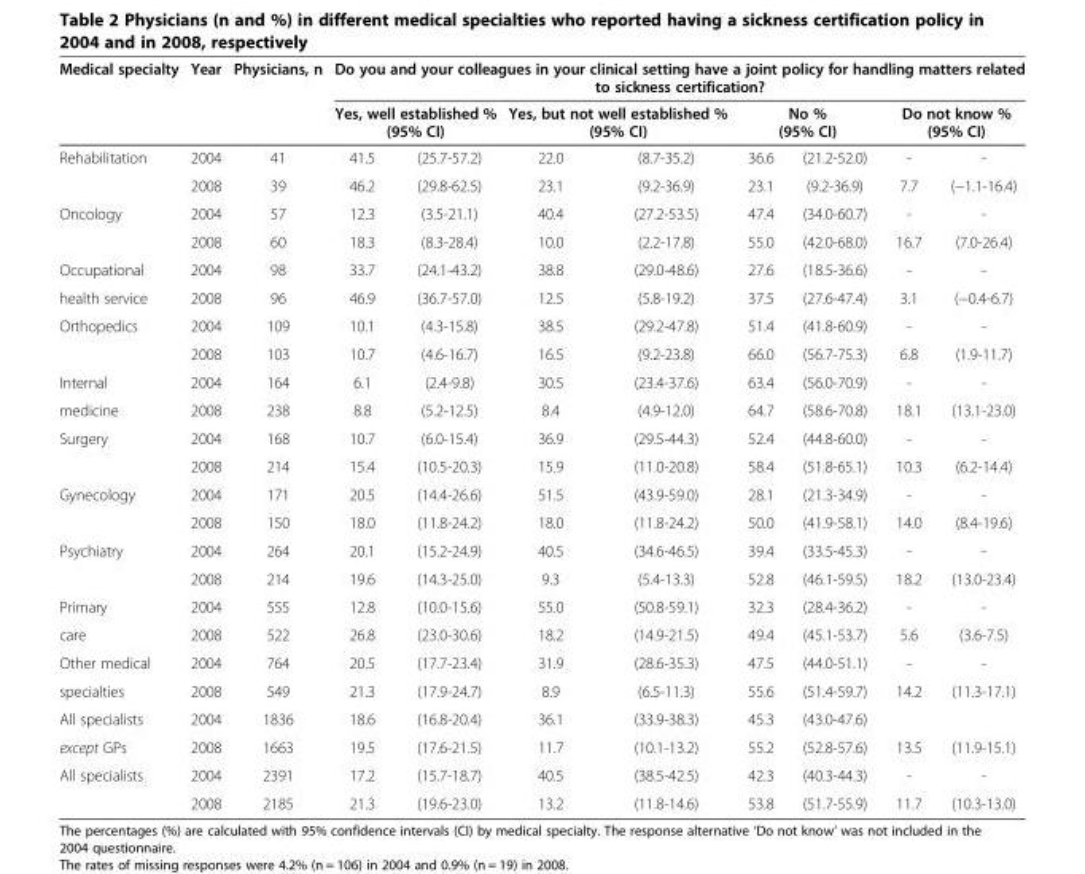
<table><thead><tr><td rowspan="3">Medical specialty Rehabilitation</td><td rowspan="3">Year 2004</td><td rowspan="3">Physicians, n 41</td><td colspan="8">Do you and your colleagues in your clinical setting have a joint policy for handling matters related to sickness certification?</td></tr><tr><td colspan="2">Yes, well established % (95% CI)</td><td colspan="2">Yes, but not well established % (95% CI)</td><td colspan="2">No % (95% CI)</td><td colspan="2">Do not know % (95% CI)</td></tr><tr><td>41.5</td><td>(25.7-57.2)</td><td>22.0</td><td>(8.7-35.2)</td><td>36.6</td><td>(21.2-52.0)</td><td>-</td><td>-</td></tr></thead><tbody><tr><td></td><td>2008</td><td>39</td><td>46.2</td><td>(29.8-62.5)</td><td>23.1</td><td>(9.2-36.9)</td><td>23.1</td><td>(9.2-36.9)</td><td>7.7</td><td>(−1.1-16.4)</td></tr><tr><td rowspan="2">Oncology</td><td>2004</td><td>57</td><td>12.3</td><td>(3.5-21.1)</td><td>40.4</td><td>(27.2-53.5)</td><td>47.4</td><td>(34.0-60.7)</td><td>-</td><td>-</td></tr><tr><td>2008</td><td>60</td><td>18.3</td><td>(8.3-28.4)</td><td>10.0</td><td>(2.2-17.8)</td><td>55.0</td><td>(42.0-68.0)</td><td>16.7</td><td>(7.0-26.4)</td></tr><tr><td>Occupational</td><td>2004</td><td>98</td><td>33.7</td><td>(24.1-43.2)</td><td>38.8</td><td>(29.0-48.6)</td><td>27.6</td><td>(18.5-36.6)</td><td>-</td><td>-</td></tr><tr><td>health service</td><td>2008</td><td>96</td><td>46.9</td><td>(36.7-57.0)</td><td>12.5</td><td>(5.8-19.2)</td><td>37.5</td><td>(27.6-47.4)</td><td>3.1</td><td>(−0.4-6.7)</td></tr><tr><td rowspan="2">Orthopedics</td><td>2004</td><td>109</td><td>10.1</td><td>(4.3-15.8)</td><td>38.5</td><td>(29.2-47.8)</td><td>51.4</td><td>(41.8-60.9)</td><td>-</td><td>-</td></tr><tr><td>2008</td><td>103</td><td>10.7</td><td>(4.6-16.7)</td><td>16.5</td><td>(9.2-23.8)</td><td>66.0</td><td>(56.7-75.3)</td><td>6.8</td><td>(1.9-11.7)</td></tr><tr><td>Internal</td><td>2004</td><td>164</td><td>6.1</td><td>(2.4-9.8)</td><td>30.5</td><td>(23.4-37.6)</td><td>63.4</td><td>(56.0-70.9)</td><td>-</td><td>-</td></tr><tr><td>medicine</td><td>2008</td><td>238</td><td>8.8</td><td>(5.2-12.5)</td><td>8.4</td><td>(4.9-12.0)</td><td>64.7</td><td>(58.6-70.8)</td><td>18.1</td><td>(13.1-23.0)</td></tr><tr><td rowspan="2">Surgery</td><td>2004</td><td>168</td><td>10.7</td><td>(6.0-15.4)</td><td>36.9</td><td>(29.5-44.3)</td><td>52.4</td><td>(44.8-60.0)</td><td>-</td><td>-</td></tr><tr><td>2008</td><td>214</td><td>15.4</td><td>(10.5-20.3)</td><td>15.9</td><td>(11.0-20.8)</td><td>58.4</td><td>(51.8-65.1)</td><td>10.3</td><td>(6.2-14.4)</td></tr><tr><td rowspan="2">Gynecology</td><td>2004</td><td>171</td><td>20.5</td><td>(14.4-26.6)</td><td>51.5</td><td>(43.9-59.0)</td><td>28.1</td><td>(21.3-34.9)</td><td>-</td><td>-</td></tr><tr><td>2008</td><td>150</td><td>18.0</td><td>(11.8-24.2)</td><td>18.0</td><td>(11.8-24.2)</td><td>50.0</td><td>(41.9-58.1)</td><td>14.0</td><td>(8.4-19.6)</td></tr><tr><td rowspan="2">Psychiatry</td><td>2004</td><td>264</td><td>20.1</td><td>(15.2-24.9)</td><td>40.5</td><td>(34.6-46.5)</td><td>39.4</td><td>(33.5-45.3)</td><td>-</td><td>-</td></tr><tr><td>2008</td><td>214</td><td>19.6</td><td>(14.3-25.0)</td><td>9.3</td><td>(5.4-13.3)</td><td>52.8</td><td>(46.1-59.5)</td><td>18.2</td><td>(13.0-23.4)</td></tr><tr><td>Primary</td><td>2004</td><td>555</td><td>12.8</td><td>(10.0-15.6)</td><td>55.0</td><td>(50.8-59.1)</td><td>32.3</td><td>(28.4-36.2)</td><td>-</td><td>-</td></tr><tr><td>care</td><td>2008</td><td>522</td><td>26.8</td><td>(23.0-30.6)</td><td>18.2</td><td>(14.9-21.5)</td><td>49.4</td><td>(45.1-53.7)</td><td>5.6</td><td>(3.6-7.5)</td></tr><tr><td>Other medical</td><td>2004</td><td>764</td><td>20.5</td><td>(17.7-23.4)</td><td>31.9</td><td>(28.6-35.3)</td><td>47.5</td><td>(44.0-51.1)</td><td>-</td><td>-</td></tr><tr><td>specialties</td><td>2008</td><td>549</td><td>21.3</td><td>(17.9-24.7)</td><td>8.9</td><td>(6.5-11.3)</td><td>55.6</td><td>(51.4-59.7)</td><td>14.2</td><td>(11.3-17.1)</td></tr><tr><td>All specialists</td><td>2004</td><td>1836</td><td>18.6</td><td>(16.8-20.4)</td><td>36.1</td><td>(33.9-38.3)</td><td>45.3</td><td>(43.0-47.6)</td><td></td><td></td></tr><tr><td>except GPs</td><td>2008</td><td>1663</td><td>19.5</td><td>(17.6-21.5)</td><td>11.7</td><td>(10.1-13.2)</td><td>55.2</td><td>(52.8-57.6)</td><td>13.5</td><td>(11.9-15.1)</td></tr><tr><td rowspan="2">All specialists</td><td>2004</td><td>2391</td><td>17.2</td><td>(15.7-18.7)</td><td>40.5</td><td>(38.5-42.5)</td><td>42.3</td><td>(40.3-44.3)</td><td>-</td><td>-</td></tr><tr><td>2008</td><td>2185</td><td>21.3</td><td>(19.6-23.0)</td><td>13.2</td><td>(11.8-14.6)</td><td>53.8</td><td>(51.7-55.9)</td><td>11.7</td><td>(10.3-13.0)</td></tr></tbody></table>